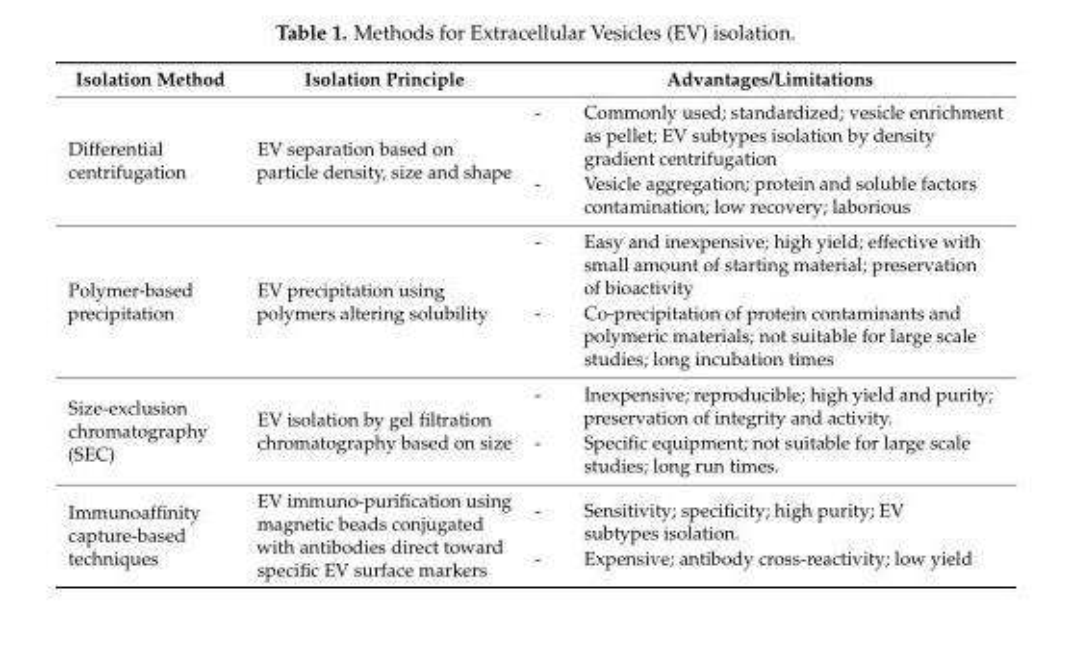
<table><thead><tr><td>Isolation Method</td><td>Isolation Principle</td><td>Advantages/Limitations</td></tr></thead><tbody><tr><td>Differential centrifugation</td><td>EV separation based on particle density, size and shape</td><td>- Commonly used; standardized; vesicle enrichment as pellet; EV subtypes isolation by density gradient centrifugation - Vesicle aggregation; protein and soluble factors contamination; low recovery; laborious</td></tr><tr><td>Polymer-based precipitation</td><td>EV precipitation using polymers altering solubility</td><td>- Easy and inexpensive; high yield; effective with small amount of starting material; preservation of bioactivity - Co-precipitation of protein contaminants and polymeric materials; not suitable for large scale studies; long incubation times</td></tr><tr><td>Size-exclusion chromatography (SEC)</td><td>EV isolation by gel filtration chromatography based on size</td><td>- Inexpensive; reproducible; high yield and purity; preservation of integrity and activity. - Specific equipment; not suitable for large scale studies; long run times.</td></tr><tr><td>Immunoaffinity capture-based techniques</td><td>EV immuno-purification using magnetic beads conjugated with antibodies direct toward specific EV surface markers</td><td>- Sensitivity; specificity; high purity; EV subtypes isolation. - Expensive; antibody cross-reactivity; low yield</td></tr></tbody></table>